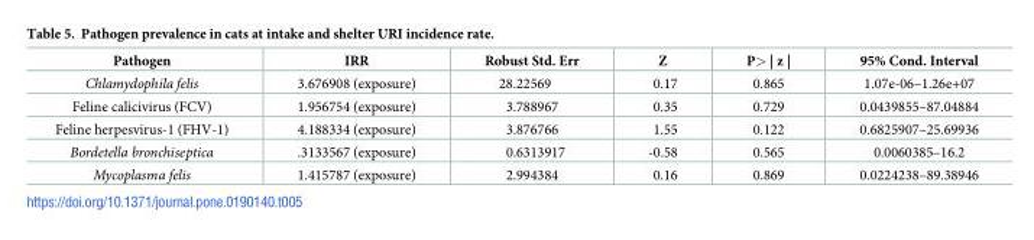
<table><thead><tr><td>Pathogen</td><td>IRR</td><td>Robust Std. Err</td><td>Z</td><td>P&gt; | z |</td><td>95% Cond. Interval</td></tr></thead><tbody><tr><td>Chlamydophila felis</td><td>3.676908 (exposure)</td><td>28.22569</td><td>0.17</td><td>0.865</td><td>1.07e-06–1.26e+07</td></tr><tr><td>Feline calicivirus (FCV)</td><td>1.956754 (exposure)</td><td>3.788967</td><td>0.35</td><td>0.729</td><td>0.0439855–87.04884</td></tr><tr><td>Feline herpesvirus-1 (FHV-1)</td><td>4.188334 (exposure)</td><td>3.876766</td><td>1.55</td><td>0.122</td><td>0.6825907–25.69936</td></tr><tr><td>Bordetella bronchiseptica</td><td>.3133567 (exposure)</td><td>0.6313917</td><td>-0.58</td><td>0.565</td><td>0.0060385–16.2</td></tr><tr><td>Mycoplasma felis</td><td>1.415787 (exposure)</td><td>2.994384</td><td>0.16</td><td>0.869</td><td>0.0224238–89.38946</td></tr></tbody></table>